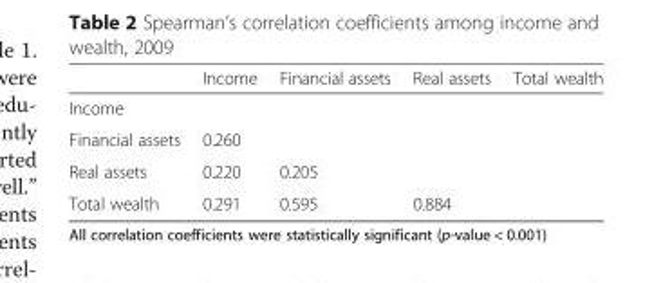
<table><thead><tr><td></td><td>Income</td><td>Financial assets</td><td>Real assets</td><td>Total wealth</td></tr></thead><tbody><tr><td colspan="5">Income</td></tr><tr><td>Financial assets</td><td>0.260</td><td></td><td></td><td></td></tr><tr><td>Real assets</td><td>0.220</td><td>0.205</td><td></td><td></td></tr><tr><td>Total wealth</td><td>0.291</td><td>0.595</td><td>0.884</td><td></td></tr></tbody></table>